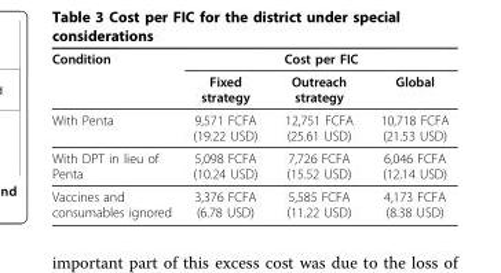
<table><thead><tr><td rowspan="2">Condition</td><td colspan="3">Cost per FIC</td></tr><tr><td>Fixed strategy</td><td>Outreach strategy</td><td>Global</td></tr></thead><tbody><tr><td>With Penta</td><td>9,571 FCFA (19.22 USD)</td><td>12,751 FCFA (25.61 USD)</td><td>10,718 FCFA (21.53 USD)</td></tr><tr><td>With DPT in lieu of Penta</td><td>5,098 FCFA (10.24 USD)</td><td>7,726 FCFA (15.52 USD)</td><td>6,046 FCFA (12.14 USD)</td></tr><tr><td>Vaccines and consumables ignored</td><td>3,376 FCFA (6.78 USD)</td><td>5,585 FCFA (11.22 USD)</td><td>4,173 FCFA (8.38 USD)</td></tr></tbody></table>